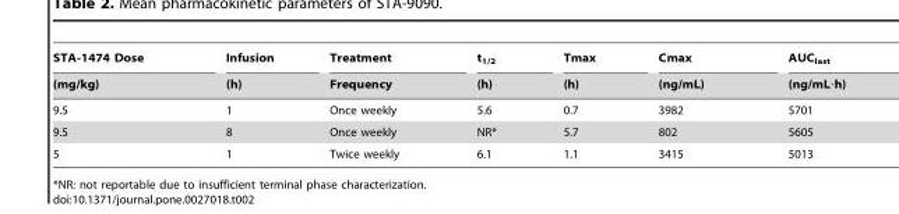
<table><thead><tr><td rowspan="2">STA-1474 Dose (mg/kg)</td><td rowspan="2">Infusion (h)</td><td rowspan="2">Treatment Frequency</td><td rowspan="2">t<sub>1/2</sub> (h)</td><td rowspan="2">Tmax (h)</td><td rowspan="2">Cmax (ng/mL)</td><td rowspan="2">AUC<sub>last</sub> (ng/mL·h)</td></tr><tr></tr></thead><tbody><tr><td>9.5</td><td>1</td><td>Once weekly</td><td>5.6</td><td>0.7</td><td>3982</td><td>5701</td></tr><tr><td>9.5</td><td>8</td><td>Once weekly</td><td>NR*</td><td>5.7</td><td>802</td><td>5605</td></tr><tr><td>5</td><td>1</td><td>Twice weekly</td><td>6.1</td><td>1.1</td><td>3415</td><td>5013</td></tr></tbody></table>